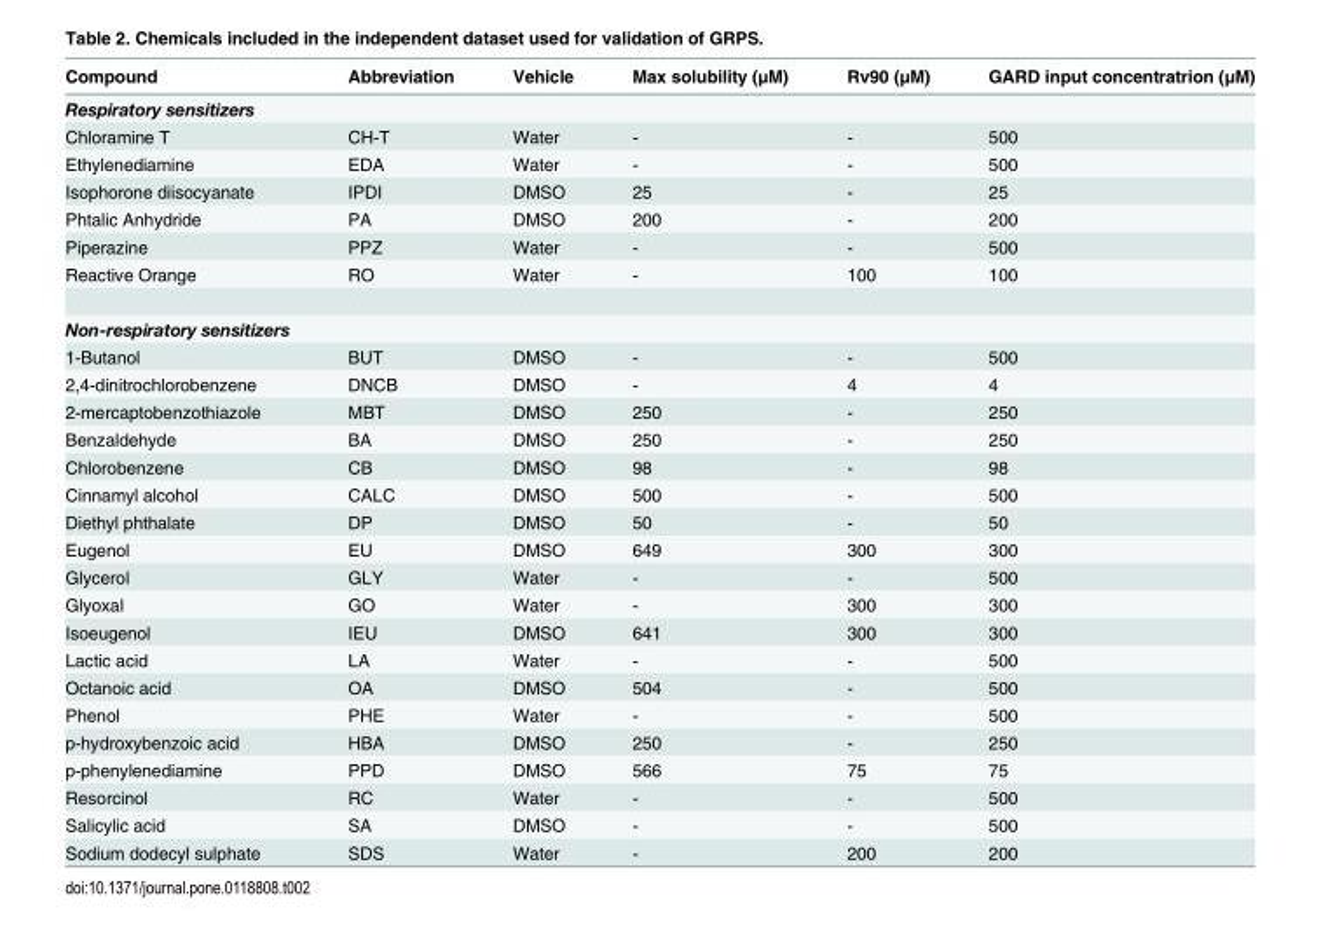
<table><thead><tr><td>Compound</td><td>Abbreviation</td><td>Vehicle</td><td>Max solubility (μM)</td><td>Rv90 (μM)</td><td>GARD input concentratrion (μM)</td></tr></thead><tbody><tr><td colspan="6">Respiratory sensitizers</td></tr><tr><td>Chloramine T</td><td>CH-T</td><td>Water</td><td>-</td><td>-</td><td>500</td></tr><tr><td>Ethylenediamine</td><td>EDA</td><td>Water</td><td>-</td><td>-</td><td>500</td></tr><tr><td>Isophorone diisocyanate</td><td>IPDI</td><td>DMSO</td><td>25</td><td>-</td><td>25</td></tr><tr><td>Phtalic Anhydride</td><td>PA</td><td>DMSO</td><td>200</td><td>-</td><td>200</td></tr><tr><td>Piperazine</td><td>PPZ</td><td>Water</td><td>-</td><td>-</td><td>500</td></tr><tr><td>Reactive Orange</td><td>RO</td><td>Water</td><td>-</td><td>100</td><td>100</td></tr><tr><td colspan="6">Non-respiratory sensitizers</td></tr><tr><td>1-Butanol</td><td>BUT</td><td>DMSO</td><td>-</td><td>-</td><td>500</td></tr><tr><td>2,4-dinitrochlorobenzene</td><td>DNCB</td><td>DMSO</td><td>-</td><td>4</td><td>4</td></tr><tr><td>2-mercaptobenzothiazole</td><td>MBT</td><td>DMSO</td><td>250</td><td>-</td><td>250</td></tr><tr><td>Benzaldehyde</td><td>BA</td><td>DMSO</td><td>250</td><td>-</td><td>250</td></tr><tr><td>Chlorobenzene</td><td>CB</td><td>DMSO</td><td>98</td><td>-</td><td>98</td></tr><tr><td>Cinnamyl alcohol</td><td>CALC</td><td>DMSO</td><td>500</td><td>-</td><td>500</td></tr><tr><td>Diethyl phthalate</td><td>DP</td><td>DMSO</td><td>50</td><td>-</td><td>50</td></tr><tr><td>Eugenol</td><td>EU</td><td>DMSO</td><td>649</td><td>300</td><td>300</td></tr><tr><td>Glycerol</td><td>GLY</td><td>Water</td><td>-</td><td>-</td><td>500</td></tr><tr><td>Glyoxal</td><td>GO</td><td>Water</td><td>-</td><td>300</td><td>300</td></tr><tr><td>Isoeugenol</td><td>IEU</td><td>DMSO</td><td>641</td><td>300</td><td>300</td></tr><tr><td>Lactic acid</td><td>LA</td><td>Water</td><td>-</td><td>-</td><td>500</td></tr><tr><td>Octanoic acid</td><td>OA</td><td>DMSO</td><td>504</td><td>-</td><td>500</td></tr><tr><td>Phenol</td><td>PHE</td><td>Water</td><td>-</td><td>-</td><td>500</td></tr><tr><td>p-hydroxybenzoic acid</td><td>HBA</td><td>DMSO</td><td>250</td><td>-</td><td>250</td></tr><tr><td>p-phenylenediamine</td><td>PPD</td><td>DMSO</td><td>566</td><td>75</td><td>75</td></tr><tr><td>Resorcinol</td><td>RC</td><td>Water</td><td>-</td><td>-</td><td>500</td></tr><tr><td>Salicylic acid</td><td>SA</td><td>DMSO</td><td>-</td><td>-</td><td>500</td></tr><tr><td>Sodium dodecyl sulphate</td><td>SDS</td><td>Water</td><td>-</td><td>200</td><td>200</td></tr></tbody></table>